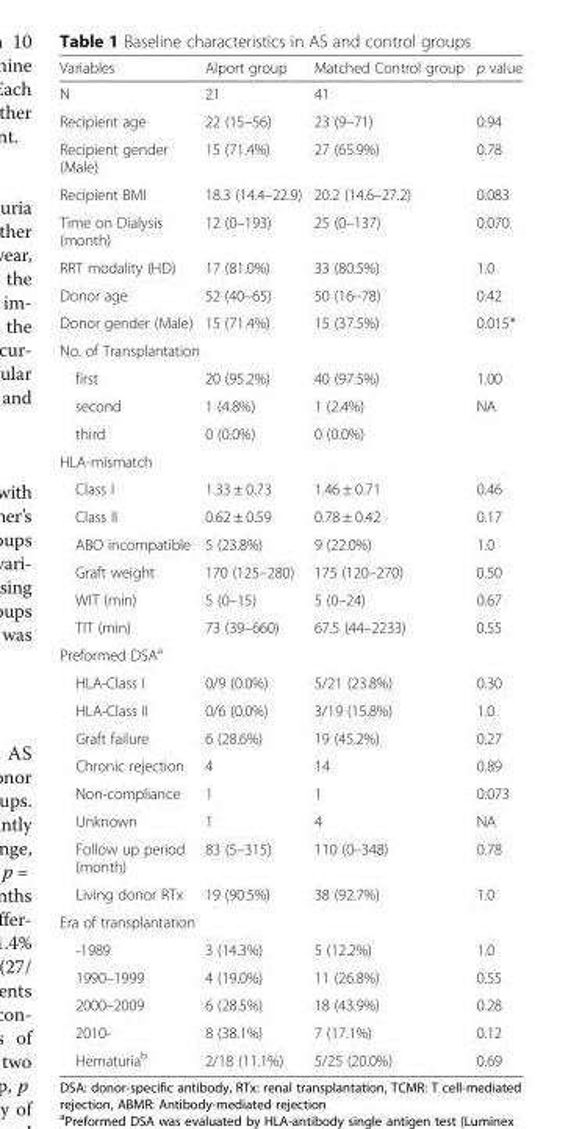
<table><thead><tr><td>Variables</td><td>Alport group</td><td>Matched Control group</td><td>p value</td></tr></thead><tbody><tr><td>N</td><td>21</td><td>41</td><td></td></tr><tr><td>Recipient age</td><td>22 (15–56)</td><td>23 (9–71)</td><td>0.94</td></tr><tr><td>Recipient gender (Male)</td><td>15 (71.4%)</td><td>27 (65.9%)</td><td>0.78</td></tr><tr><td>Recipient BMI</td><td>18.3 (14.4–22.9)</td><td>20.2 (14.6–27.2)</td><td>0.083</td></tr><tr><td>Time on Dialysis (month)</td><td>12 (0–193)</td><td>25 (0–137)</td><td>0.070</td></tr><tr><td>RRT modality (HD)</td><td>17 (81.0%)</td><td>33 (80.5%)</td><td>1.0</td></tr><tr><td>Donor age</td><td>52 (40–65)</td><td>50 (16–78)</td><td>0.42</td></tr><tr><td>Donor gender (Male)</td><td>15 (71.4%)</td><td>15 (37.5%)</td><td>0.015*</td></tr><tr><td colspan="4">No. of Transplantation</td></tr><tr><td>first</td><td>20 (95.2%)</td><td>40 (97.5%)</td><td>1.00</td></tr><tr><td>second</td><td>1 (4.8%)</td><td>1 (2.4%)</td><td>NA</td></tr><tr><td>third</td><td>0 (0.0%)</td><td>0 (0.0%)</td><td></td></tr><tr><td colspan="4">HLA-mismatch</td></tr><tr><td>Class I</td><td>1.33 ± 0.73</td><td>1.46 ± 0.71</td><td>0.46</td></tr><tr><td>Class II</td><td>0.62 ± 0.59</td><td>0.78 ± 0.42</td><td>0.17</td></tr><tr><td>ABO incompatible</td><td>5 (23.8%)</td><td>9 (22.0%)</td><td>1.0</td></tr><tr><td>Graft weight</td><td>170 (125–280)</td><td>175 (120–270)</td><td>0.50</td></tr><tr><td>WIT (min)</td><td>5 (0–15)</td><td>5 (0–24)</td><td>0.67</td></tr><tr><td>TIT (min)</td><td>73 (39–660)</td><td>67.5 (44–2233)</td><td>0.55</td></tr><tr><td colspan="4">Preformed DSA<sup>a</sup></td></tr><tr><td>HLA-Class I</td><td>0/9 (0.0%)</td><td>5/21 (23.8%)</td><td>0.30</td></tr><tr><td>HLA-Class II</td><td>0/6 (0.0%)</td><td>3/19 (15.8%)</td><td>1.0</td></tr><tr><td>Graft failure</td><td>6 (28.6%)</td><td>19 (45.2%)</td><td>0.27</td></tr><tr><td>Chronic rejection</td><td>4</td><td>14</td><td>0.89</td></tr><tr><td>Non-compliance</td><td>1</td><td>1</td><td>0.073</td></tr><tr><td>Unknown</td><td>1</td><td>4</td><td>NA</td></tr><tr><td>Follow up period (month)</td><td>83 (5–315)</td><td>110 (0–348)</td><td>0.78</td></tr><tr><td>Living donor RTx</td><td>19 (90.5%)</td><td>38 (92.7%)</td><td>1.0</td></tr><tr><td colspan="4">Era of transplantation</td></tr><tr><td>-1989</td><td>3 (14.3%)</td><td>5 (12.2%)</td><td>1.0</td></tr><tr><td>1990–1999</td><td>4 (19.0%)</td><td>11 (26.8%)</td><td>0.55</td></tr><tr><td>2000–2009</td><td>6 (28.5%)</td><td>18 (43.9%)</td><td>0.28</td></tr><tr><td>2010-</td><td>8 (38.1%)</td><td>7 (17.1%)</td><td>0.12</td></tr><tr><td>Hematuria<sup>b</sup></td><td>2/18 (11.1%)</td><td>5/25 (20.0%)</td><td>0.69</td></tr></tbody></table>